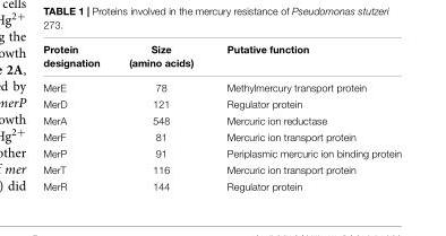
<table><thead><tr><td>Protein designation</td><td>Size (amino acids)</td><td>Putative function</td></tr></thead><tbody><tr><td>MerE</td><td>78</td><td>Methylmercury transport protein</td></tr><tr><td>MerD</td><td>121</td><td>Regulator protein</td></tr><tr><td>MerA</td><td>548</td><td>Mercuric ion reductase</td></tr><tr><td>MerF</td><td>81</td><td>Mercuric ion transport protein</td></tr><tr><td>MerP</td><td>91</td><td>Periplasmic mercuric ion binding protein</td></tr><tr><td>MerT</td><td>116</td><td>Mercuric ion transport protein</td></tr><tr><td>MerR</td><td>144</td><td>Regulator protein</td></tr></tbody></table>